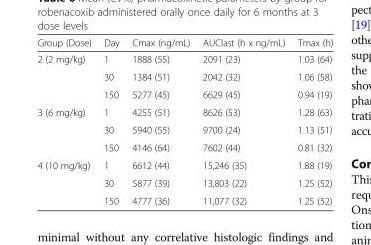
<table><thead><tr><td>Group (Dose)</td><td>Day</td><td>Cmax (ng/mL)</td><td>AUClast (h x ng/mL)</td><td>Tmax (h)</td></tr></thead><tbody><tr><td rowspan="3">2 (2 mg/kg)</td><td>1</td><td>1888 (55)</td><td>2091 (23)</td><td>1.03 (64)</td></tr><tr><td>30</td><td>1384 (51)</td><td>2042 (32)</td><td>1.06 (58)</td></tr><tr><td>150</td><td>5277 (45)</td><td>6629 (45)</td><td>0.94 (19)</td></tr><tr><td rowspan="3">3 (6 mg/kg)</td><td>1</td><td>4255 (51)</td><td>8626 (53)</td><td>1.28 (63)</td></tr><tr><td>30</td><td>5940 (55)</td><td>9700 (24)</td><td>1.13 (51)</td></tr><tr><td>150</td><td>4146 (64)</td><td>7602 (44)</td><td>0.81 (32)</td></tr><tr><td rowspan="3">4 (10 mg/kg)</td><td>1</td><td>6612 (44)</td><td>15,246 (35)</td><td>1.88 (19)</td></tr><tr><td>30</td><td>5877 (39)</td><td>13,803 (22)</td><td>1.25 (52)</td></tr><tr><td>150</td><td>4777 (36)</td><td>11,077 (32)</td><td>1.25 (52)</td></tr></tbody></table>